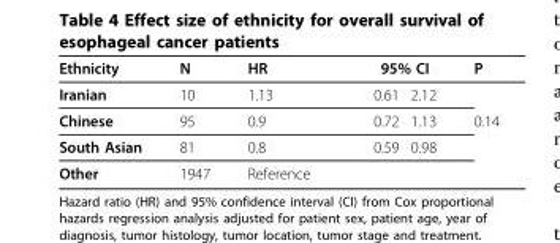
<table><thead><tr><td rowspan="2">Ethnicity Iranian</td><td rowspan="2">N 10</td><td rowspan="2">HR 1.13</td><td colspan="2">95% CI</td><td rowspan="2">P</td></tr><tr><td>0.61</td><td>2.12</td></tr></thead><tbody><tr><td>Chinese</td><td>95</td><td>0.9</td><td>0.72</td><td>1.13</td><td>0.14</td></tr><tr><td>South Asian</td><td>81</td><td>0.8</td><td>0.59</td><td>0.98</td><td></td></tr><tr><td>Other</td><td>1947</td><td>Reference</td><td></td><td></td><td></td></tr></tbody></table>